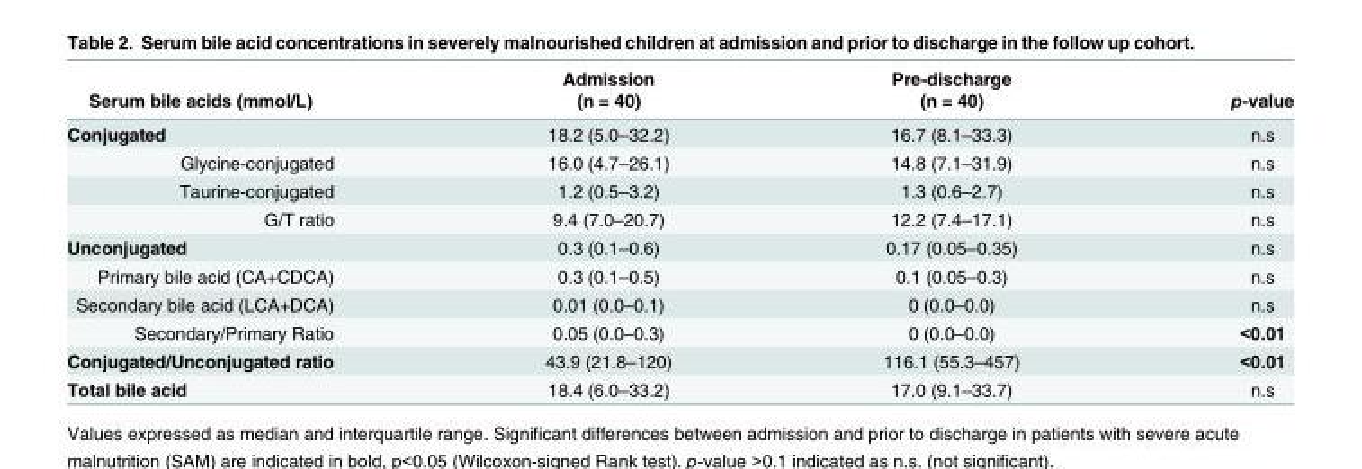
<table><thead><tr><td rowspan="2">Serum bile acids (mmol/L)</td><td rowspan="2">Admission (n = 40)</td><td rowspan="2">Pre-discharge (n = 40)</td><td rowspan="2">p-value</td></tr><tr></tr></thead><tbody><tr><td>Conjugated</td><td>18.2 (5.0–32.2)</td><td>16.7 (8.1–33.3)</td><td>n.s</td></tr><tr><td>Glycine-conjugated</td><td>16.0 (4.7–26.1)</td><td>14.8 (7.1–31.9)</td><td>n.s</td></tr><tr><td>Taurine-conjugated</td><td>1.2 (0.5–3.2)</td><td>1.3 (0.6–2.7)</td><td>n.s</td></tr><tr><td>G/T ratio</td><td>9.4 (7.0–20.7)</td><td>12.2 (7.4–17.1)</td><td>n.s</td></tr><tr><td>Unconjugated</td><td>0.3 (0.1–0.6)</td><td>0.17 (0.05–0.35)</td><td>n.s</td></tr><tr><td>Primary bile acid (CA+CDCA)</td><td>0.3 (0.1–0.5)</td><td>0.1 (0.05–0.3)</td><td>n.s</td></tr><tr><td>Secondary bile acid (LCA+DCA)</td><td>0.01 (0.0–0.1)</td><td>0 (0.0–0.0)</td><td>n.s</td></tr><tr><td>Secondary/Primary Ratio</td><td>0.05 (0.0–0.3)</td><td>0 (0.0–0.0)</td><td>&lt;0.01</td></tr><tr><td>Conjugated/Unconjugated ratio</td><td>43.9 (21.8–120)</td><td>116.1 (55.3–457)</td><td>&lt;0.01</td></tr><tr><td>Total bile acid</td><td>18.4 (6.0–33.2)</td><td>17.0 (9.1–33.7)</td><td>n.s</td></tr></tbody></table>